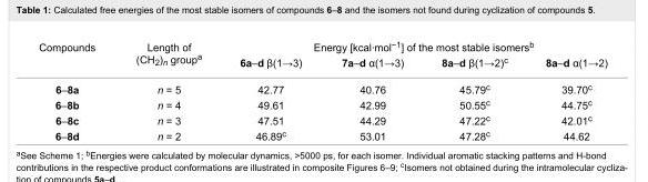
<table><tbody><tr><td rowspan="2">Compounds</td><td rowspan="2">Length of (CH<sub>2</sub>)<sub>n</sub> group<sup>a</sup></td><td colspan="4">Energy [kcal∙mol<sup>−1</sup>] of the most stable isomers<sup>b</sup></td></tr><tr><td>6a–d β(1→3)</td><td>7a–d α(1→3)</td><td>8a–d β(1→2)<sup>c</sup></td><td>8a–d α(1→2)</td></tr><tr><td>6–8a</td><td>n = 5</td><td>42.77</td><td>40.76</td><td>45.79<sup>c</sup></td><td>39.70<sup>c</sup></td></tr><tr><td>6–8b</td><td>n = 4</td><td>49.61</td><td>42.99</td><td>50.55<sup>c</sup></td><td>44.75<sup>c</sup></td></tr><tr><td>6–8c</td><td>n = 3</td><td>47.51</td><td>44.29</td><td>47.22<sup>c</sup></td><td>42.01<sup>c</sup></td></tr><tr><td>6–8d</td><td>n = 2</td><td>46.89<sup>c</sup></td><td>53.01</td><td>47.28<sup>c</sup></td><td>44.62</td></tr></tbody></table>